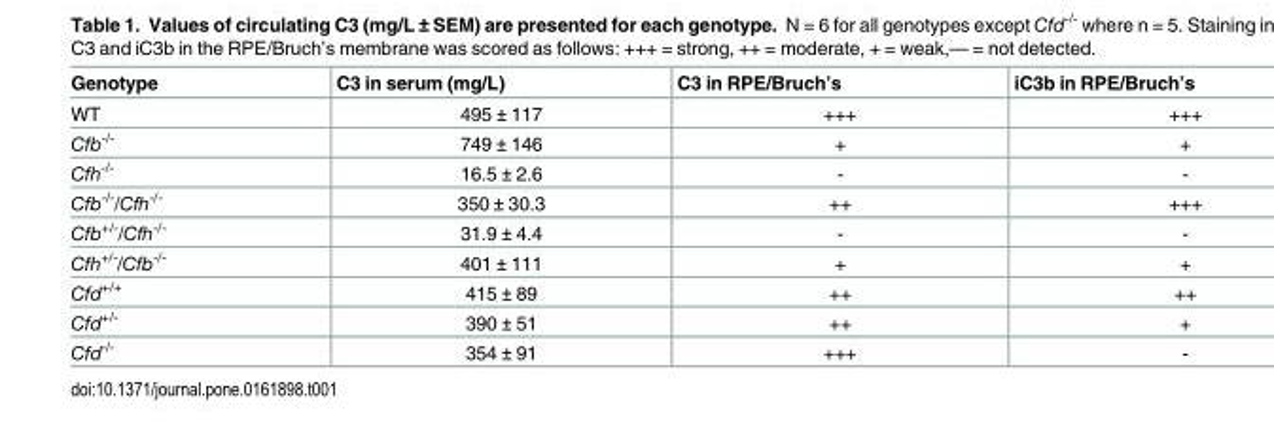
<table><thead><tr><td>Genotype</td><td>C3 in serum (mg/L)</td><td>C3 in RPE/Bruch’s</td><td>iC3b in RPE/Bruch’s</td></tr></thead><tbody><tr><td>WT</td><td>495 ± 117</td><td>+++</td><td>+++</td></tr><tr><td>Cfb<sup>-/-</sup></td><td>749 ± 146</td><td>+</td><td>+</td></tr><tr><td>Cfh<sup>-/-</sup></td><td>16.5 ± 2.6</td><td>-</td><td>-</td></tr><tr><td>Cfb<sup>-/-</sup>/Cfh<sup>-/-</sup></td><td>350 ± 30.3</td><td>++</td><td>+++</td></tr><tr><td>Cfb<sup>+/-</sup>/Cfh<sup>-/-</sup></td><td>31.9 ± 4.4</td><td>-</td><td>-</td></tr><tr><td>Cfh<sup>+/-</sup>/Cfb<sup>-/-</sup></td><td>401 ± 111</td><td>+</td><td>+</td></tr><tr><td>Cfd<sup>+/+</sup></td><td>415 ± 89</td><td>++</td><td>++</td></tr><tr><td>Cfd<sup>+/-</sup></td><td>390 ± 51</td><td>++</td><td>+</td></tr><tr><td>Cfd<sup>-/-</sup></td><td>354 ± 91</td><td>+++</td><td>-</td></tr></tbody></table>